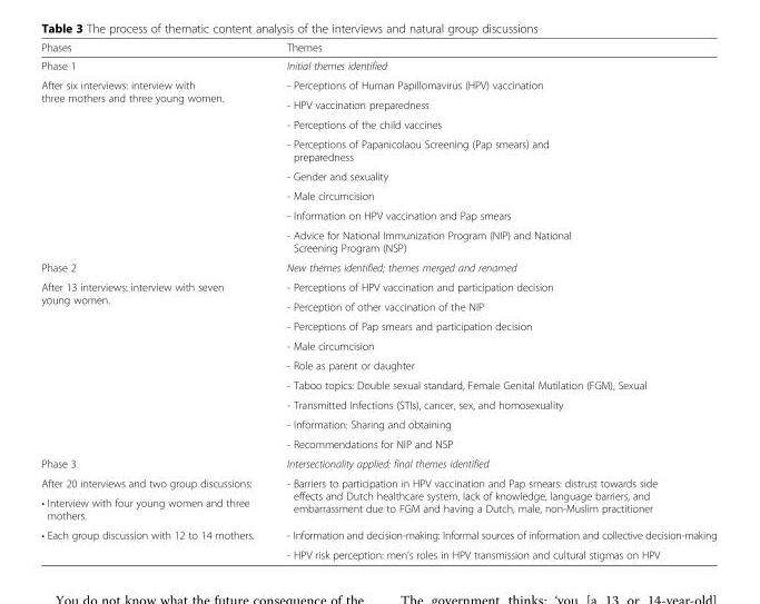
<table><thead><tr><td>Phases</td><td>Themes</td></tr></thead><tbody><tr><td>Phase 1</td><td>Initial themes identified</td></tr><tr><td rowspan="8">After six interviews: interview with three mothers and three young women.</td><td>- Perceptions of Human Papillomavirus (HPV) vaccination</td></tr><tr><td>- HPV vaccination preparedness</td></tr><tr><td>- Perceptions of the child vaccines</td></tr><tr><td>- Perceptions of Papanicolaou Screening (Pap smears) and preparedness</td></tr><tr><td>- Gender and sexuality</td></tr><tr><td>- Male circumcision</td></tr><tr><td>- Information on HPV vaccination and Pap smears</td></tr><tr><td>- Advice for National Immunization Program (NIP) and National Screening Program (NSP)</td></tr><tr><td>Phase 2</td><td>New themes identified; themes merged and renamed</td></tr><tr><td rowspan="9">After 13 interviews: interview with seven young women.</td><td>- Perceptions of HPV vaccination and participation decision</td></tr><tr><td>- Perception of other vaccination of the NIP</td></tr><tr><td>- Perceptions of Pap smears and participation decision</td></tr><tr><td>- Male circumcision</td></tr><tr><td>- Role as parent or daughter</td></tr><tr><td>- Taboo topics: Double sexual standard, Female Genital Mutilation (FGM), Sexual</td></tr><tr><td>- Transmitted Infections (STIs), cancer, sex, and homosexuality</td></tr><tr><td>- Information: Sharing and obtaining</td></tr><tr><td>- Recommendations for NIP and NSP</td></tr><tr><td>Phase 3</td><td>Intersectionality applied: final themes identified</td></tr><tr><td>After 20 interviews and two group discussions:</td><td rowspan="2">- Barriers to participation in HPV vaccination and Pap smears: distrust towards side effects and Dutch healthcare system, lack of knowledge, language barriers, and embarrassment due to FGM and having a Dutch, male, non-Muslim practitioner</td></tr><tr><td>• Interview with four young women and three mothers.</td></tr><tr><td rowspan="2">• Each group discussion with 12 to 14 mothers.</td><td>- Information and decision-making: Informal sources of information and collective decision-making</td></tr><tr><td>- HPV risk perception: men’s roles in HPV transmission and cultural stigmas on HPV</td></tr></tbody></table>